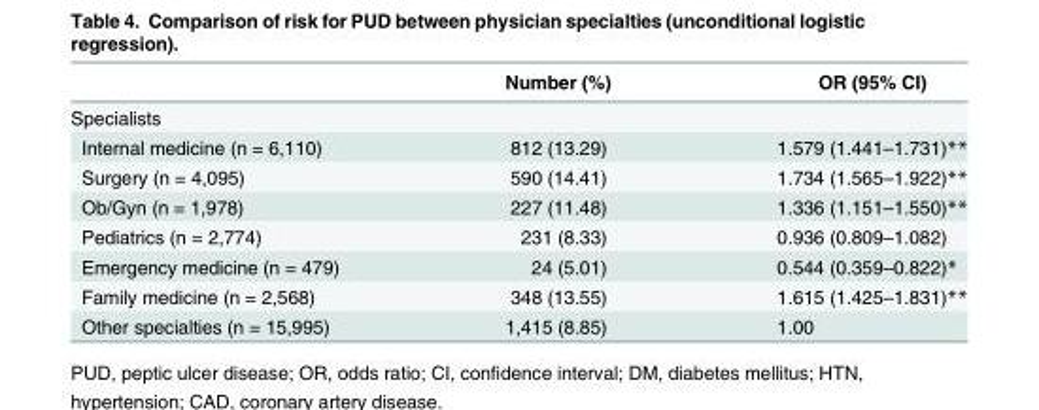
<table><thead><tr><td></td><td>Number (%)</td><td>OR (95% CI)</td></tr></thead><tbody><tr><td colspan="3">Specialists</td></tr><tr><td>Internal medicine (n = 6,110)</td><td>812 (13.29)</td><td>1.579 (1.441–1.731)**</td></tr><tr><td>Surgery (n = 4,095)</td><td>590 (14.41)</td><td>1.734 (1.565–1.922)**</td></tr><tr><td>Ob/Gyn (n = 1,978)</td><td>227 (11.48)</td><td>1.336 (1.151–1.550)**</td></tr><tr><td>Pediatrics (n = 2,774)</td><td>231 (8.33)</td><td>0.936 (0.809–1.082)</td></tr><tr><td>Emergency medicine (n = 479)</td><td>24 (5.01)</td><td>0.544 (0.359–0.822)*</td></tr><tr><td>Family medicine (n = 2,568)</td><td>348 (13.55)</td><td>1.615 (1.425–1.831)**</td></tr><tr><td>Other specialties (n = 15,995)</td><td>1,415 (8.85)</td><td>1.00</td></tr></tbody></table>